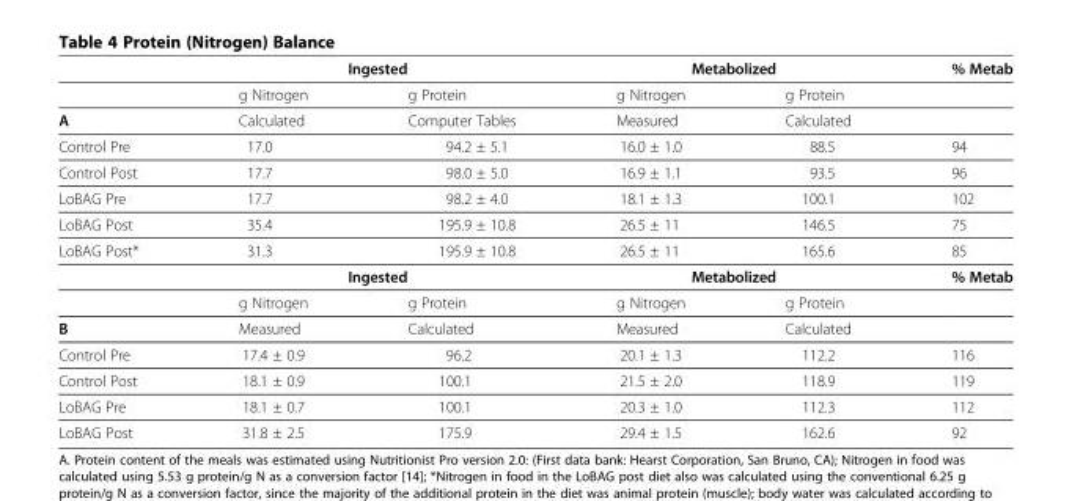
<table><thead><tr><td rowspan="2"></td><td colspan="2">Ingested</td><td colspan="2">Metabolized</td><td rowspan="2">% Metab</td></tr><tr><td>g Nitrogen</td><td>g Protein</td><td>g Nitrogen</td><td>g Protein</td></tr></thead><tbody><tr><td>A</td><td>Calculated</td><td>Computer Tables</td><td>Measured</td><td>Calculated</td><td></td></tr><tr><td>Control Pre</td><td>17.0</td><td>94.2 ± 5.1</td><td>16.0 ± 1.0</td><td>88.5</td><td>94</td></tr><tr><td>Control Post</td><td>17.7</td><td>98.0 ± 5.0</td><td>16.9 ± 1.1</td><td>93.5</td><td>96</td></tr><tr><td>LoBAG Pre</td><td>17.7</td><td>98.2 ± 4.0</td><td>18.1 ± 1.3</td><td>100.1</td><td>102</td></tr><tr><td>LoBAG Post</td><td>35.4</td><td>195.9 ± 10.8</td><td>26.5 ± 11</td><td>146.5</td><td>75</td></tr><tr><td rowspan="3">LoBAG Post*</td><td>31.3</td><td>195.9 ± 10.8</td><td>26.5 ± 11</td><td>165.6</td><td>85</td></tr><tr><td colspan="2">Ingested</td><td colspan="2">Metabolized</td><td>% Metab</td></tr><tr><td>g Nitrogen</td><td>g Protein</td><td>g Nitrogen</td><td>g Protein</td><td></td></tr><tr><td>B</td><td>Measured</td><td>Calculated</td><td>Measured</td><td>Calculated</td><td></td></tr><tr><td>Control Pre</td><td>17.4 ± 0.9</td><td>96.2</td><td>20.1 ± 1.3</td><td>112.2</td><td>116</td></tr><tr><td>Control Post</td><td>18.1 ± 0.9</td><td>100.1</td><td>21.5 ± 2.0</td><td>118.9</td><td>119</td></tr><tr><td>LoBAG Pre</td><td>18.1 ± 0.7</td><td>100.1</td><td>20.3 ± 1.0</td><td>112.3</td><td>112</td></tr><tr><td>LoBAG Post</td><td>31.8 ± 2.5</td><td>175.9</td><td>29.4 ± 1.5</td><td>162.6</td><td>92</td></tr></tbody></table>